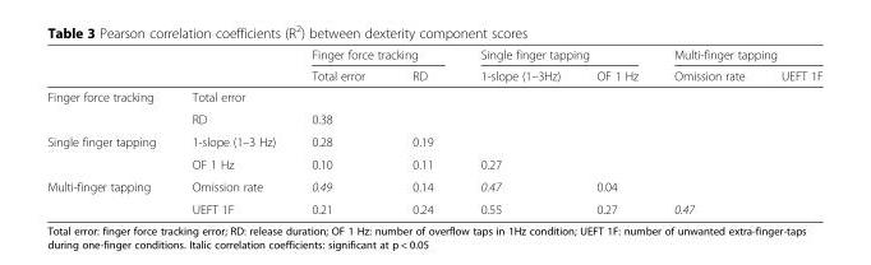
<table><thead><tr><td rowspan="2"></td><td rowspan="2"></td><td colspan="2">Finger force tracking</td><td colspan="2">Single finger tapping</td><td colspan="2">Multi-finger tapping</td></tr><tr><td>Total error</td><td>RD</td><td>1-slope (1–3Hz)</td><td>OF 1 Hz</td><td>Omission rate</td><td>UEFT 1F</td></tr></thead><tbody><tr><td rowspan="2">Finger force tracking</td><td>Total error</td><td></td><td></td><td></td><td></td><td></td><td></td></tr><tr><td>RD</td><td>0.38</td><td></td><td></td><td></td><td></td><td></td></tr><tr><td rowspan="2">Single finger tapping</td><td>1-slope (1–3 Hz)</td><td>0.28</td><td>0.19</td><td></td><td></td><td></td><td></td></tr><tr><td>OF 1 Hz</td><td>0.10</td><td>0.11</td><td>0.27</td><td></td><td></td><td></td></tr><tr><td rowspan="2">Multi-finger tapping</td><td>Omission rate</td><td>0.49</td><td>0.14</td><td>0.47</td><td>0.04</td><td></td><td></td></tr><tr><td>UEFT 1F</td><td>0.21</td><td>0.24</td><td>0.55</td><td>0.27</td><td>0.47</td><td></td></tr></tbody></table>